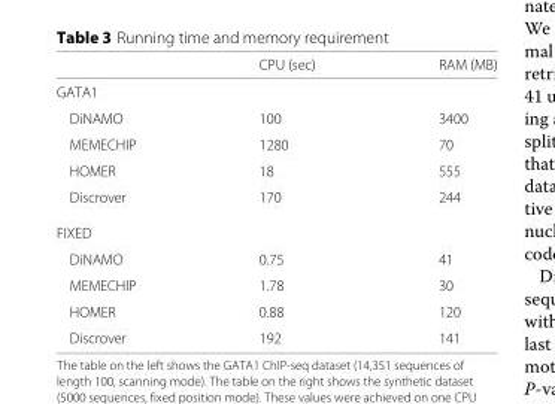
<table><thead><tr><td></td><td>CPU (sec)</td><td>RAM (MB)</td></tr></thead><tbody><tr><td colspan="3">GATA1</td></tr><tr><td>DiNAMO</td><td>100</td><td>3400</td></tr><tr><td>MEMECHIP</td><td>1280</td><td>70</td></tr><tr><td>HOMER</td><td>18</td><td>555</td></tr><tr><td>Discrover</td><td>170</td><td>244</td></tr><tr><td colspan="3">FIXED</td></tr><tr><td>DiNAMO</td><td>0.75</td><td>41</td></tr><tr><td>MEMECHIP</td><td>1.78</td><td>30</td></tr><tr><td>HOMER</td><td>0.88</td><td>120</td></tr><tr><td>Discrover</td><td>192</td><td>141</td></tr></tbody></table>